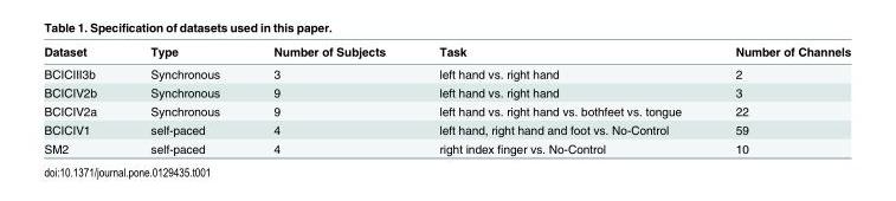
<table><thead><tr><td>Dataset</td><td>Type</td><td>Number of Subjects</td><td>Task</td><td>Number of Channels</td></tr></thead><tbody><tr><td>BCICIII3b</td><td>Synchronous</td><td>3</td><td>left hand vs. right hand</td><td>2</td></tr><tr><td>BCICIV2b</td><td>Synchronous</td><td>9</td><td>left hand vs. right hand</td><td>3</td></tr><tr><td>BCICIV2a</td><td>Synchronous</td><td>9</td><td>left hand vs. right hand vs. bothfeet vs. tongue</td><td>22</td></tr><tr><td>BCICIV1</td><td>self-paced</td><td>4</td><td>left hand, right hand and foot vs. No-Control</td><td>59</td></tr><tr><td>SM2</td><td>self-paced</td><td>4</td><td>right index finger vs. No-Control</td><td>10</td></tr></tbody></table>